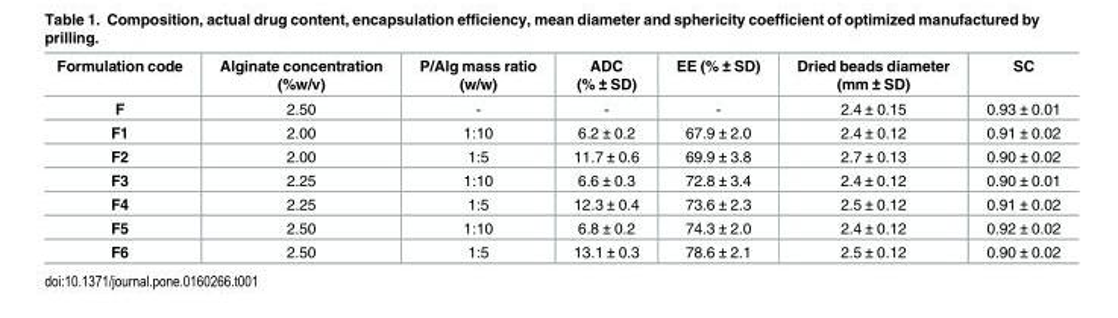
<table><thead><tr><td>Formulation code</td><td>Alginate concentration (%w/v)</td><td>P/Alg mass ratio (w/w)</td><td>ADC (% ± SD)</td><td>EE (% ± SD)</td><td>Dried beads diameter (mm ± SD)</td><td>SC</td></tr></thead><tbody><tr><td>F</td><td>2.50</td><td>-</td><td>-</td><td>-</td><td>2.4 ± 0.15</td><td>0.93 ± 0.01</td></tr><tr><td>F1</td><td>2.00</td><td>1:10</td><td>6.2 ± 0.2</td><td>67.9 ± 2.0</td><td>2.4 ± 0.12</td><td>0.91 ± 0.02</td></tr><tr><td>F2</td><td>2.00</td><td>1:5</td><td>11.7 ± 0.6</td><td>69.9 ± 3.8</td><td>2.7 ± 0.13</td><td>0.90 ± 0.02</td></tr><tr><td>F3</td><td>2.25</td><td>1:10</td><td>6.6 ± 0.3</td><td>72.8 ± 3.4</td><td>2.4 ± 0.12</td><td>0.90 ± 0.01</td></tr><tr><td>F4</td><td>2.25</td><td>1:5</td><td>12.3 ± 0.4</td><td>73.6 ± 2.3</td><td>2.5 ± 0.12</td><td>0.91 ± 0.02</td></tr><tr><td>F5</td><td>2.50</td><td>1:10</td><td>6.8 ± 0.2</td><td>74.3 ± 2.0</td><td>2.4 ± 0.12</td><td>0.92 ± 0.02</td></tr><tr><td>F6</td><td>2.50</td><td>1:5</td><td>13.1 ± 0.3</td><td>78.6 ± 2.1</td><td>2.5 ± 0.12</td><td>0.90 ± 0.02</td></tr></tbody></table>